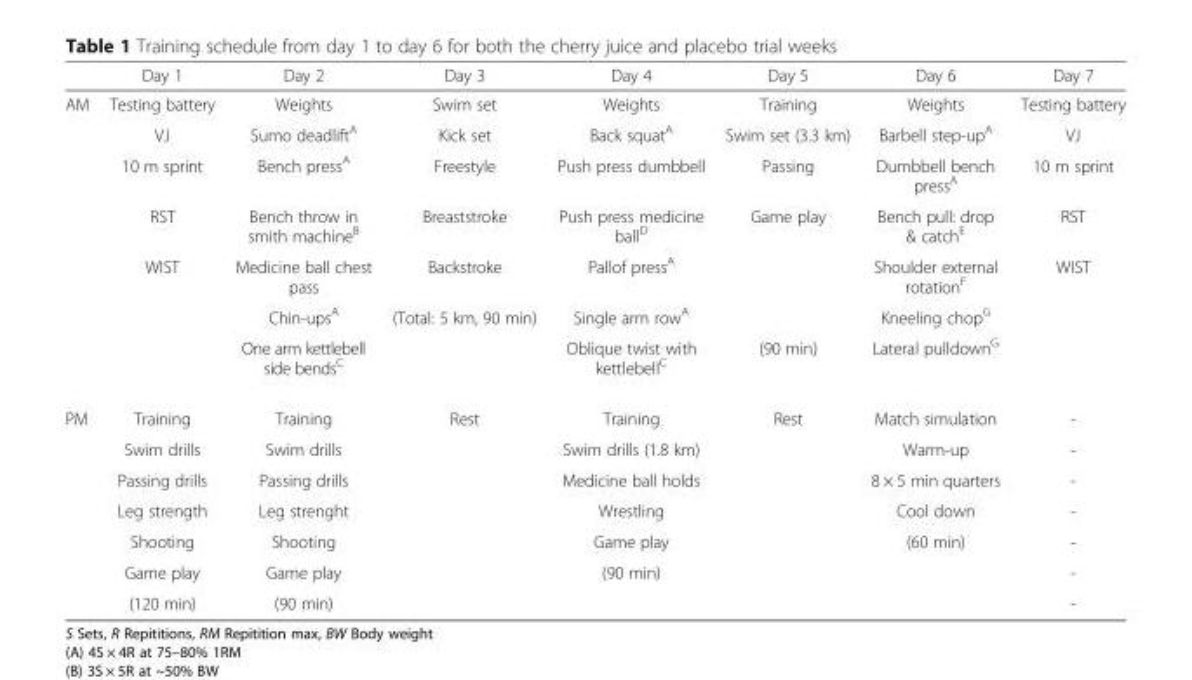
<table><thead><tr><td></td><td>Day 1</td><td>Day 2</td><td>Day 3</td><td>Day 4</td><td>Day 5</td><td>Day 6</td><td>Day 7</td></tr></thead><tbody><tr><td rowspan="7">AM</td><td>Testing battery</td><td>Weights</td><td>Swim set</td><td>Weights</td><td>Training</td><td>Weights</td><td>Testing battery</td></tr><tr><td>VJ</td><td>Sumo deadlift<sup>A</sup></td><td>Kick set</td><td>Back squat<sup>A</sup></td><td>Swim set (3.3 km)</td><td>Barbell step-up<sup>A</sup></td><td>VJ</td></tr><tr><td>10 m sprint</td><td>Bench press<sup>A</sup></td><td>Freestyle</td><td>Push press dumbbell</td><td>Passing</td><td>Dumbbell bench press<sup>A</sup></td><td>10 m sprint</td></tr><tr><td>RST</td><td>Bench throw in smith machine<sup>B</sup></td><td>Breaststroke</td><td>Push press medicine ball<sup>D</sup></td><td>Game play</td><td>Bench pull: drop &amp; catch<sup>E</sup></td><td>RST</td></tr><tr><td>WIST</td><td>Medicine ball chest pass</td><td>Backstroke</td><td>Pallof press<sup>A</sup></td><td></td><td>Shoulder external rotation<sup>F</sup></td><td>WIST</td></tr><tr><td></td><td>Chin-ups<sup>A</sup></td><td>(Total: 5 km, 90 min)</td><td>Single arm row<sup>A</sup></td><td></td><td>Kneeling chop<sup>G</sup></td><td></td></tr><tr><td></td><td>One arm kettlebell side bends<sup>C</sup></td><td></td><td>Oblique twist with kettlebell<sup>C</sup></td><td>(90 min)</td><td>Lateral pulldown<sup>G</sup></td><td></td></tr><tr><td rowspan="7">PM</td><td>Training</td><td>Training</td><td>Rest</td><td>Training</td><td>Rest</td><td>Match simulation</td><td>-</td></tr><tr><td>Swim drills</td><td>Swim drills</td><td></td><td>Swim drills (1.8 km)</td><td></td><td>Warm-up</td><td>-</td></tr><tr><td>Passing drills</td><td>Passing drills</td><td></td><td>Medicine ball holds</td><td></td><td>8 × 5 min quarters</td><td>-</td></tr><tr><td>Leg strength</td><td>Leg strenght</td><td></td><td>Wrestling</td><td></td><td>Cool down</td><td>-</td></tr><tr><td>Shooting</td><td>Shooting</td><td></td><td>Game play</td><td></td><td>(60 min)</td><td>-</td></tr><tr><td>Game play</td><td>Game play</td><td></td><td>(90 min)</td><td></td><td></td><td>-</td></tr><tr><td>(120 min)</td><td>(90 min)</td><td></td><td></td><td></td><td></td><td>-</td></tr></tbody></table>